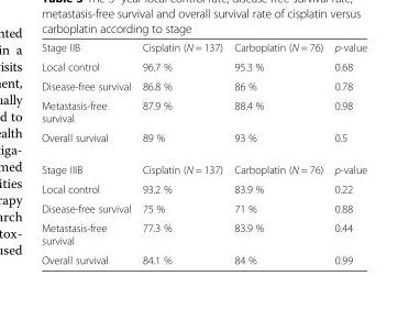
<table><tbody><tr><td>Stage IIB</td><td>Cisplatin (N = 137)</td><td>Carboplatin (N = 76)</td><td>p-value</td></tr><tr><td>Local control</td><td>96.7 %</td><td>95.3 %</td><td>0.68</td></tr><tr><td>Disease-free survival</td><td>86.8 %</td><td>86 %</td><td>0.78</td></tr><tr><td>Metastasis-free survival</td><td>87.9 %</td><td>88.4 %</td><td>0.98</td></tr><tr><td>Overall survival</td><td>89 %</td><td>93 %</td><td>0.5</td></tr><tr><td>Stage IIIB</td><td>Cisplatin (N = 137)</td><td>Carboplatin (N = 76)</td><td>p-value</td></tr><tr><td>Local control</td><td>93.2 %</td><td>83.9 %</td><td>0.22</td></tr><tr><td>Disease-free survival</td><td>75 %</td><td>71 %</td><td>0.88</td></tr><tr><td>Metastasis-free survival</td><td>77.3 %</td><td>83.9 %</td><td>0.44</td></tr><tr><td>Overall survival</td><td>84.1 %</td><td>84 %</td><td>0.99</td></tr></tbody></table>